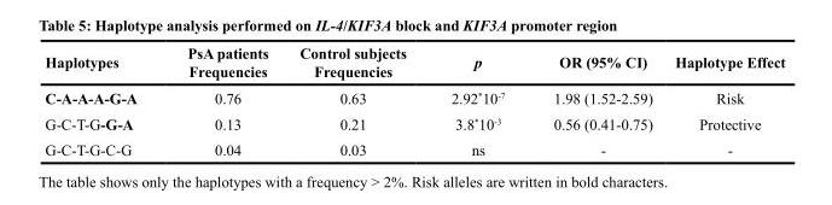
<table><thead><tr><td>Haplotypes</td><td>PsA patients Frequencies</td><td>Control subjects Frequencies</td><td>p</td><td>OR (95% CI)</td><td>Haplotype Effect</td></tr></thead><tbody><tr><td>C-A-A-A-G-A</td><td>0.76</td><td>0.63</td><td>2.92*10<sup>-7</sup></td><td>1.98 (1.52-2.59)</td><td>Risk</td></tr><tr><td>G-C-T-G-G-A</td><td>0.13</td><td>0.21</td><td>3.8*10<sup>-3</sup></td><td>0.56 (0.41-0.75)</td><td>Protective</td></tr><tr><td>G-C-T-G-C-G</td><td>0.04</td><td>0.03</td><td>ns</td><td>-</td><td>-</td></tr></tbody></table>